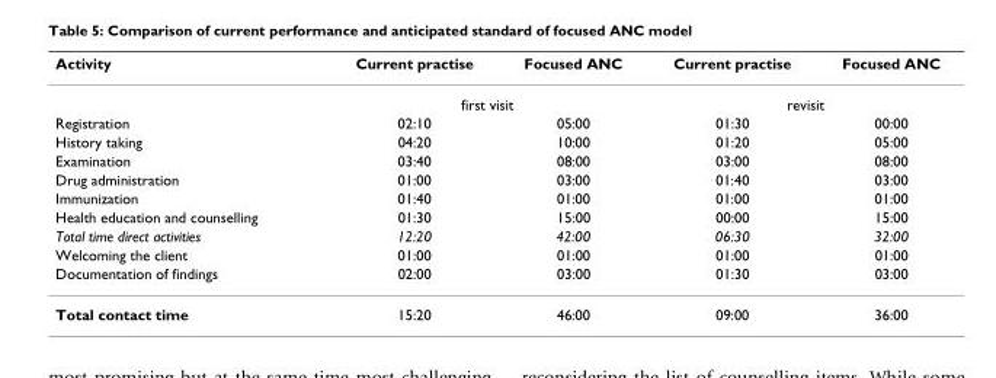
<table><thead><tr><td>Activity</td><td>Current practise</td><td>Focused ANC</td><td>Current practise</td><td>Focused ANC</td></tr></thead><tbody><tr><td></td><td colspan="2">first visit</td><td colspan="2">revisit</td></tr><tr><td>Registration</td><td>02:10</td><td>05:00</td><td>01:30</td><td>00:00</td></tr><tr><td>History taking</td><td>04:20</td><td>10:00</td><td>01:20</td><td>05:00</td></tr><tr><td>Examination</td><td>03:40</td><td>08:00</td><td>03:00</td><td>08:00</td></tr><tr><td>Drug administration</td><td>01:00</td><td>03:00</td><td>01:40</td><td>03:00</td></tr><tr><td>Immunization</td><td>01:40</td><td>01:00</td><td>01:00</td><td>01:00</td></tr><tr><td>Health education and counselling</td><td>01:30</td><td>15:00</td><td>00:00</td><td>15:00</td></tr><tr><td>Total time direct activities</td><td>12:20</td><td>42:00</td><td>06:30</td><td>32:00</td></tr><tr><td>Welcoming the client</td><td>01:00</td><td>01:00</td><td>01:00</td><td>01:00</td></tr><tr><td>Documentation of findings</td><td>02:00</td><td>03:00</td><td>01:30</td><td>03:00</td></tr><tr><td>Total contact time</td><td>15:20</td><td>46:00</td><td>09:00</td><td>36:00</td></tr></tbody></table>